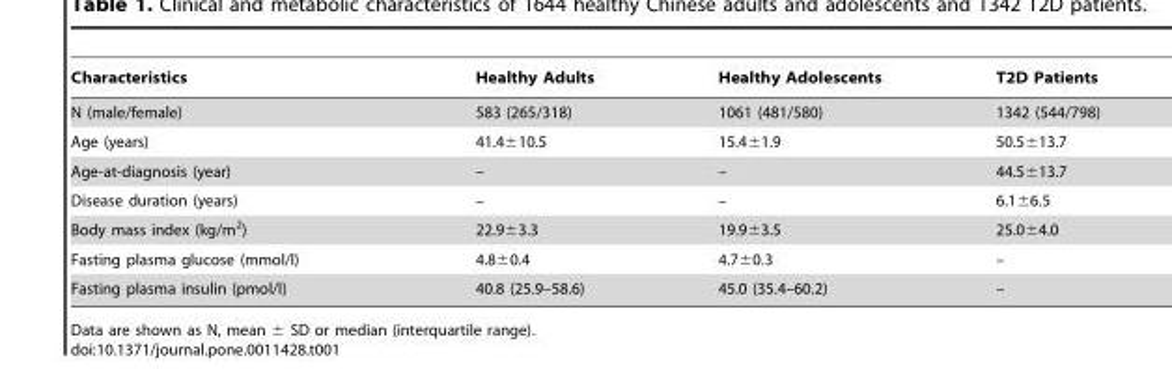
<table><thead><tr><td>Characteristics</td><td>Healthy Adults</td><td>Healthy Adolescents</td><td>T2D Patients</td></tr></thead><tbody><tr><td>N (male/female)</td><td>583 (265/318)</td><td>1061 (481/580)</td><td>1342 (544/798)</td></tr><tr><td>Age (years)</td><td>41.4±10.5</td><td>15.4±1.9</td><td>50.5±13.7</td></tr><tr><td>Age-at-diagnosis (year)</td><td>–</td><td>–</td><td>44.5±13.7</td></tr><tr><td>Disease duration (years)</td><td>–</td><td>–</td><td>6.1±6.5</td></tr><tr><td>Body mass index (kg/m<sup>2</sup>)</td><td>22.9±3.3</td><td>19.9±3.5</td><td>25.0±4.0</td></tr><tr><td>Fasting plasma glucose (mmol/l)</td><td>4.8±0.4</td><td>4.7±0.3</td><td>–</td></tr><tr><td>Fasting plasma insulin (pmol/l)</td><td>40.8 (25.9–58.6)</td><td>45.0 (35.4–60.2)</td><td>–</td></tr></tbody></table>